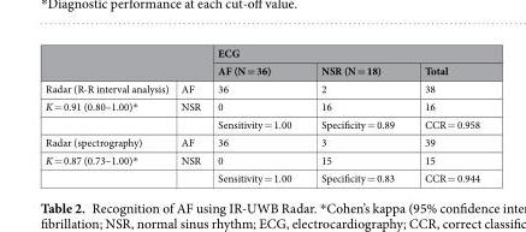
<table><thead><tr><td rowspan="2"></td><td rowspan="2"></td><td colspan="3">ECG</td></tr><tr><td>AF (N = 36)</td><td>NSR (N = 18)</td><td>Total</td></tr></thead><tbody><tr><td>Radar (R-R interval analysis)</td><td>AF</td><td>36</td><td>2</td><td>38</td></tr><tr><td rowspan="2">K = 0.91 (0.80–1.00)*</td><td>NSR</td><td>0</td><td>16</td><td>16</td></tr><tr><td></td><td>Sensitivity = 1.00</td><td>Specificity = 0.89</td><td>CCR = 0.958</td></tr><tr><td>Radar (spectrography)</td><td>AF</td><td>36</td><td>3</td><td>39</td></tr><tr><td rowspan="2">K = 0.87 (0.73–1.00)*</td><td>NSR</td><td>0</td><td>15</td><td>15</td></tr><tr><td></td><td>Sensitivity = 1.00</td><td>Specificity = 0.83</td><td>CCR = 0.944</td></tr></tbody></table>